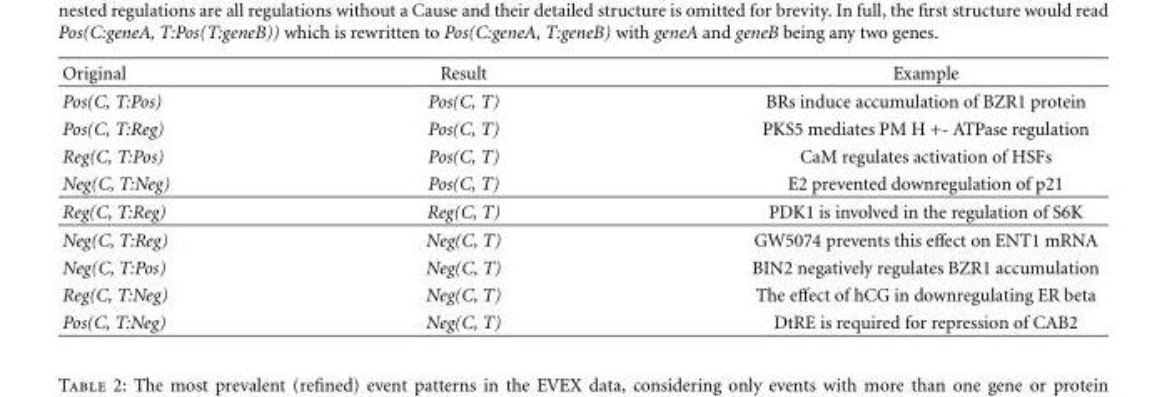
<table><thead><tr><td>Original</td><td>Result</td><td>Example</td></tr></thead><tbody><tr><td>Pos(C, T:Pos)</td><td>Pos(C, T)</td><td>BRs induce accumulation of BZR1 protein</td></tr><tr><td>Pos(C, T:Reg)</td><td>Pos(C, T)</td><td>PKS5 mediates PM H +- ATPase regulation</td></tr><tr><td>Reg(C, T:Pos)</td><td>Pos(C, T)</td><td>CaM regulates activation of HSFs</td></tr><tr><td>Neg(C, T:Neg)</td><td>Pos(C, T)</td><td>E2 prevented downregulation of p21</td></tr><tr><td>Reg(C, T:Reg)</td><td>Reg(C, T)</td><td>PDK1 is involved in the regulation of S6K</td></tr><tr><td>Neg(C, T:Reg)</td><td>Neg(C, T)</td><td>GW5074 prevents this effect on ENT1 mRNA</td></tr><tr><td>Neg(C, T:Pos)</td><td>Neg(C, T)</td><td>BIN2 negatively regulates BZR1 accumulation</td></tr><tr><td>Reg(C, T:Neg)</td><td>Neg(C, T)</td><td>The effect of hCG in downregulating ER beta</td></tr><tr><td>Pos(C, T:Neg)</td><td>Neg(C, T)</td><td>DtRE is required for repression of CAB2</td></tr></tbody></table>